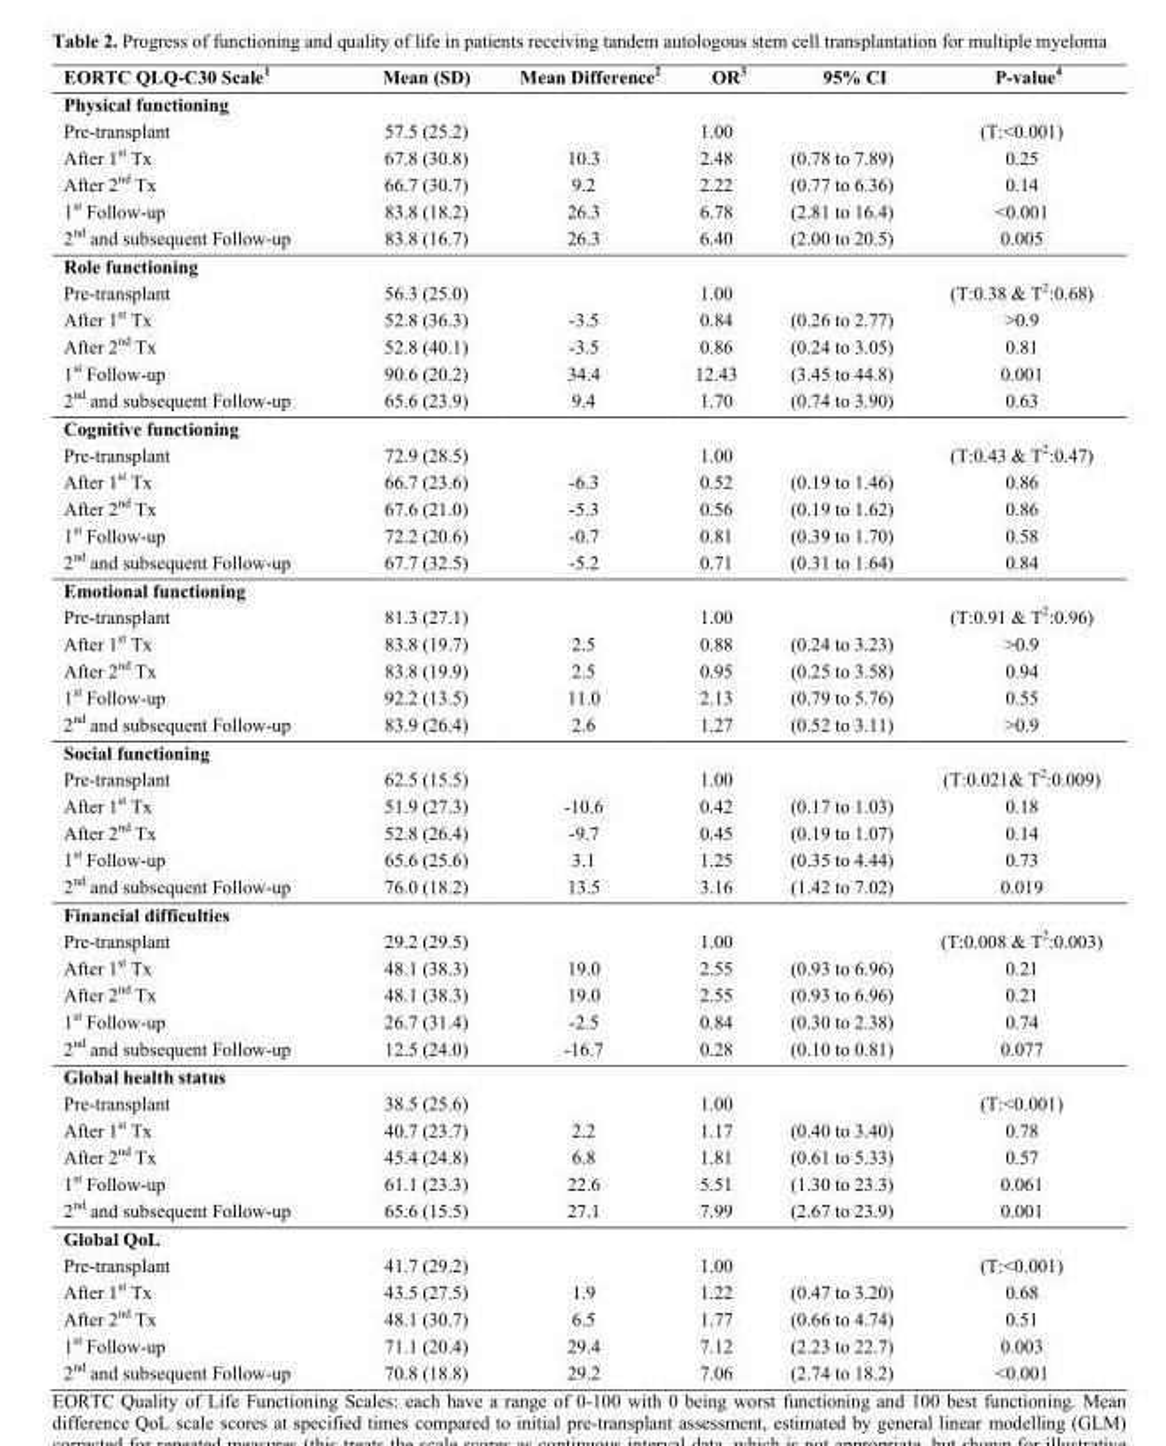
<table><thead><tr><td>EORTC QLQ-C30 Scale<sup>1</sup></td><td>Mean (SD)</td><td>Mean Difference<sup>2</sup></td><td>OR<sup>3</sup></td><td>95% CI</td><td>P-value<sup>4</sup></td></tr></thead><tbody><tr><td colspan="6">Physical functioning</td></tr><tr><td>Pre-transplant</td><td>57.5 (25.2)</td><td></td><td>1.00</td><td></td><td>(T:&lt;0.001)</td></tr><tr><td>After 1<sup>st</sup> Tx</td><td>67.8 (30.8)</td><td>10.3</td><td>2.48</td><td>(0.78 to 7.89)</td><td>0.25</td></tr><tr><td>After 2<sup>nd</sup> Tx</td><td>66.7 (30.7)</td><td>9.2</td><td>2.22</td><td>(0.77 to 6.36)</td><td>0.14</td></tr><tr><td>1<sup>st</sup> Follow-up</td><td>83.8 (18.2)</td><td>26.3</td><td>6.78</td><td>(2.81 to 16.4)</td><td>&lt;0.001</td></tr><tr><td>2<sup>nd</sup> and subsequent Follow-up</td><td>83.8 (16.7)</td><td>26.3</td><td>6.40</td><td>(2.00 to 20.5)</td><td>0.005</td></tr><tr><td colspan="6">Role functioning</td></tr><tr><td>Pre-transplant</td><td>56.3 (25.0)</td><td></td><td>1.00</td><td></td><td>(T:0.38 &amp; T<sup>2</sup>:0.68)</td></tr><tr><td>After 1<sup>st</sup> Tx</td><td>52.8 (36.3)</td><td>-3.5</td><td>0.84</td><td>(0.26 to 2.77)</td><td>&gt;0.9</td></tr><tr><td>After 2<sup>nd</sup> Tx</td><td>52.8 (40.1)</td><td>-3.5</td><td>0.86</td><td>(0.24 to 3.05)</td><td>0.81</td></tr><tr><td>1<sup>st</sup> Follow-up</td><td>90.6 (20.2)</td><td>34.4</td><td>12.43</td><td>(3.45 to 44.8)</td><td>0.001</td></tr><tr><td>2<sup>nd</sup> and subsequent Follow-up</td><td>65.6 (23.9)</td><td>9.4</td><td>1.70</td><td>(0.74 to 3.90)</td><td>0.63</td></tr><tr><td colspan="6">Cognitive functioning</td></tr><tr><td>Pre-transplant</td><td>72.9 (28.5)</td><td></td><td>1.00</td><td></td><td>(T:0.43 &amp; T<sup>2</sup>:0.47)</td></tr><tr><td>After 1<sup>st</sup> Tx</td><td>66.7 (23.6)</td><td>-6.3</td><td>0.52</td><td>(0.19 to 1.46)</td><td>0.86</td></tr><tr><td>After 2<sup>nd</sup> Tx</td><td>67.6 (21.0)</td><td>-5.3</td><td>0.56</td><td>(0.19 to 1.62)</td><td>0.86</td></tr><tr><td>1<sup>st</sup> Follow-up</td><td>72.2 (20.6)</td><td>-0.7</td><td>0.81</td><td>(0.39 to 1.70)</td><td>0.58</td></tr><tr><td>2<sup>nd</sup> and subsequent Follow-up</td><td>67.7 (32.5)</td><td>-5.2</td><td>0.71</td><td>(0.31 to 1.64)</td><td>0.84</td></tr><tr><td colspan="6">Emotional functioning</td></tr><tr><td>Pre-transplant</td><td>81.3 (27.1)</td><td></td><td>1.00</td><td></td><td>(T:0.91 &amp; T<sup>2</sup>:0.96)</td></tr><tr><td>After 1<sup>st</sup> Tx</td><td>83.8 (19.7)</td><td>2.5</td><td>0.88</td><td>(0.24 to 3.23)</td><td>&gt;0.9</td></tr><tr><td>After 2<sup>nd</sup> Tx</td><td>83.8 (19.9)</td><td>2.5</td><td>0.95</td><td>(0.25 to 3.58)</td><td>0.94</td></tr><tr><td>1<sup>st</sup> Follow-up</td><td>92.2 (13.5)</td><td>11.0</td><td>2.13</td><td>(0.79 to 5.76)</td><td>0.55</td></tr><tr><td>2<sup>nd</sup> and subsequent Follow-up</td><td>83.9 (26.4)</td><td>2.6</td><td>1.27</td><td>(0.52 to 3.11)</td><td>&gt;0.9</td></tr><tr><td colspan="6">Social functioning</td></tr><tr><td>Pre-transplant</td><td>62.5 (15.5)</td><td></td><td>1.00</td><td></td><td>(T:0.021&amp; T<sup>2</sup>:0.009)</td></tr><tr><td>After 1<sup>st</sup> Tx</td><td>51.9 (27.3)</td><td>-10.6</td><td>0.42</td><td>(0.17 to 1.03)</td><td>0.18</td></tr><tr><td>After 2<sup>nd</sup> Tx</td><td>52.8 (26.4)</td><td>-9.7</td><td>0.45</td><td>(0.19 to 1.07)</td><td>0.14</td></tr><tr><td>1<sup>st</sup> Follow-up</td><td>65.6 (25.6)</td><td>3.1</td><td>1.25</td><td>(0.35 to 4.44)</td><td>0.73</td></tr><tr><td>2<sup>nd</sup> and subsequent Follow-up</td><td>76.0 (18.2)</td><td>13.5</td><td>3.16</td><td>(1.42 to 7.02)</td><td>0.019</td></tr><tr><td colspan="6">Financial difficulties</td></tr><tr><td>Pre-transplant</td><td>29.2 (29.5)</td><td></td><td>1.00</td><td></td><td>(T:0.008 &amp; T<sup>2</sup>:0.003)</td></tr><tr><td>After 1<sup>st</sup> Tx</td><td>48.1 (38.3)</td><td>19.0</td><td>2.55</td><td>(0.93 to 6.96)</td><td>0.21</td></tr><tr><td>After 2<sup>nd</sup> Tx</td><td>48.1 (38.3)</td><td>19.0</td><td>2.55</td><td>(0.93 to 6.96)</td><td>0.21</td></tr><tr><td>1<sup>st</sup> Follow-up</td><td>26.7 (31.4)</td><td>-2.5</td><td>0.84</td><td>(0.30 to 2.38)</td><td>0.74</td></tr><tr><td>2<sup>nd</sup> and subsequent Follow-up</td><td>12.5 (24.0)</td><td>-16.7</td><td>0.28</td><td>(0.10 to 0.81)</td><td>0.077</td></tr><tr><td colspan="6">Global health status</td></tr><tr><td>Pre-transplant</td><td>38.5 (25.6)</td><td></td><td>1.00</td><td></td><td>(T:&lt;0.001)</td></tr><tr><td>After 1<sup>st</sup> Tx</td><td>40.7 (23.7)</td><td>2.2</td><td>1.17</td><td>(0.40 to 3.40)</td><td>0.78</td></tr><tr><td>After 2<sup>nd</sup> Tx</td><td>45.4 (24.8)</td><td>6.8</td><td>1.81</td><td>(0.61 to 5.33)</td><td>0.57</td></tr><tr><td>1<sup>st</sup> Follow-up</td><td>61.1 (23.3)</td><td>22.6</td><td>5.51</td><td>(1.30 to 23.3)</td><td>0.061</td></tr><tr><td>2<sup>nd</sup> and subsequent Follow-up</td><td>65.6 (15.5)</td><td>27.1</td><td>7.99</td><td>(2.67 to 23.9)</td><td>0.001</td></tr><tr><td colspan="6">Global QoL</td></tr><tr><td>Pre-transplant</td><td>41.7 (29.2)</td><td></td><td>1.00</td><td></td><td>(T:&lt;0.001)</td></tr><tr><td>After 1<sup>st</sup> Tx</td><td>43.5 (27.5)</td><td>1.9</td><td>1.22</td><td>(0.47 to 3.20)</td><td>0.68</td></tr><tr><td>After 2<sup>nd</sup> Tx</td><td>48.1 (30.7)</td><td>6.5</td><td>1.77</td><td>(0.66 to 4.74)</td><td>0.51</td></tr><tr><td>1<sup>st</sup> Follow-up</td><td>71.1 (20.4)</td><td>29.4</td><td>7.12</td><td>(2.23 to 22.7)</td><td>0.003</td></tr><tr><td>2<sup>nd</sup> and subsequent Follow-up</td><td>70.8 (18.8)</td><td>29.2</td><td>7.06</td><td>(2.74 to 18.2)</td><td>&lt;0.001</td></tr></tbody></table>